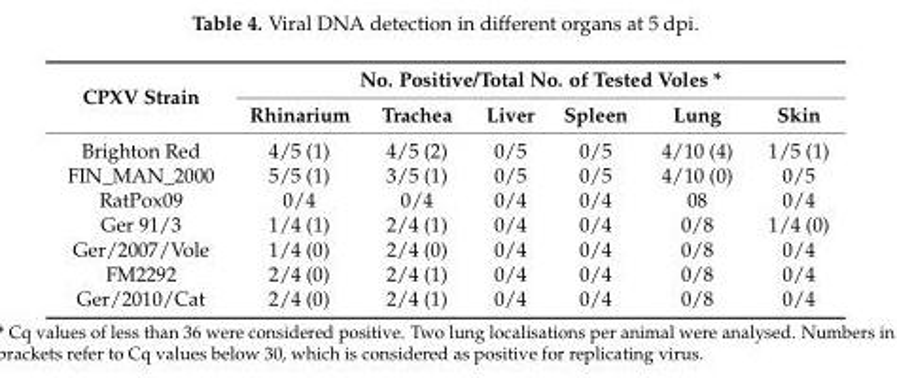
<table><thead><tr><td rowspan="2">CPXV Strain</td><td colspan="6">No. Positive/Total No. of Tested Voles *</td></tr><tr><td>Rhinarium</td><td>Trachea</td><td>Liver</td><td>Spleen</td><td>Lung</td><td>Skin</td></tr></thead><tbody><tr><td>Brighton Red</td><td>4/5 (1)</td><td>4/5 (2)</td><td>0/5</td><td>0/5</td><td>4/10 (4)</td><td>1/5 (1)</td></tr><tr><td>FIN_MAN_2000</td><td>5/5 (1)</td><td>3/5 (1)</td><td>0/5</td><td>0/5</td><td>4/10 (0)</td><td>0/5</td></tr><tr><td>RatPox09</td><td>0/4</td><td>0/4</td><td>0/4</td><td>0/4</td><td>08</td><td>0/4</td></tr><tr><td>Ger 91/3</td><td>1/4 (1)</td><td>2/4 (1)</td><td>0/4</td><td>0/4</td><td>0/8</td><td>1/4 (0)</td></tr><tr><td>Ger/2007/Vole</td><td>1/4 (0)</td><td>2/4 (0)</td><td>0/4</td><td>0/4</td><td>0/8</td><td>0/4</td></tr><tr><td>FM2292</td><td>2/4 (0)</td><td>2/4 (1)</td><td>0/4</td><td>0/4</td><td>0/8</td><td>0/4</td></tr><tr><td>Ger/2010/Cat</td><td>2/4 (0)</td><td>2/4 (1)</td><td>0/4</td><td>0/4</td><td>0/8</td><td>0/4</td></tr></tbody></table>